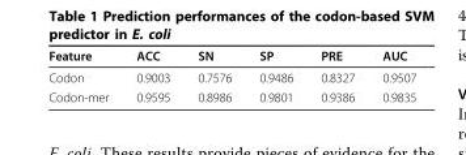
<table><thead><tr><td>Feature</td><td>ACC</td><td>SN</td><td>SP</td><td>PRE</td><td>AUC</td></tr></thead><tbody><tr><td>Codon</td><td>0.9003</td><td>0.7576</td><td>0.9486</td><td>0.8327</td><td>0.9507</td></tr><tr><td>Codon-mer</td><td>0.9595</td><td>0.8986</td><td>0.9801</td><td>0.9386</td><td>0.9835</td></tr></tbody></table>